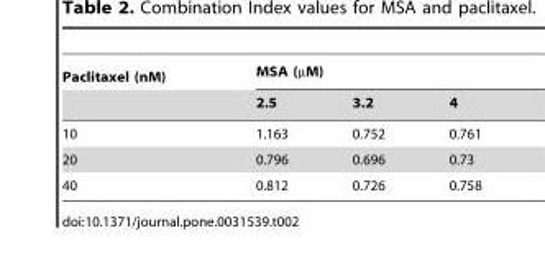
<table><thead><tr><td rowspan="2">Paclitaxel (nM)</td><td colspan="3">MSA (µM)</td></tr><tr><td>2.5</td><td>3.2</td><td>4</td></tr></thead><tbody><tr><td>10</td><td>1.163</td><td>0.752</td><td>0.761</td></tr><tr><td>20</td><td>0.796</td><td>0.696</td><td>0.73</td></tr><tr><td>40</td><td>0.812</td><td>0.726</td><td>0.758</td></tr></tbody></table>